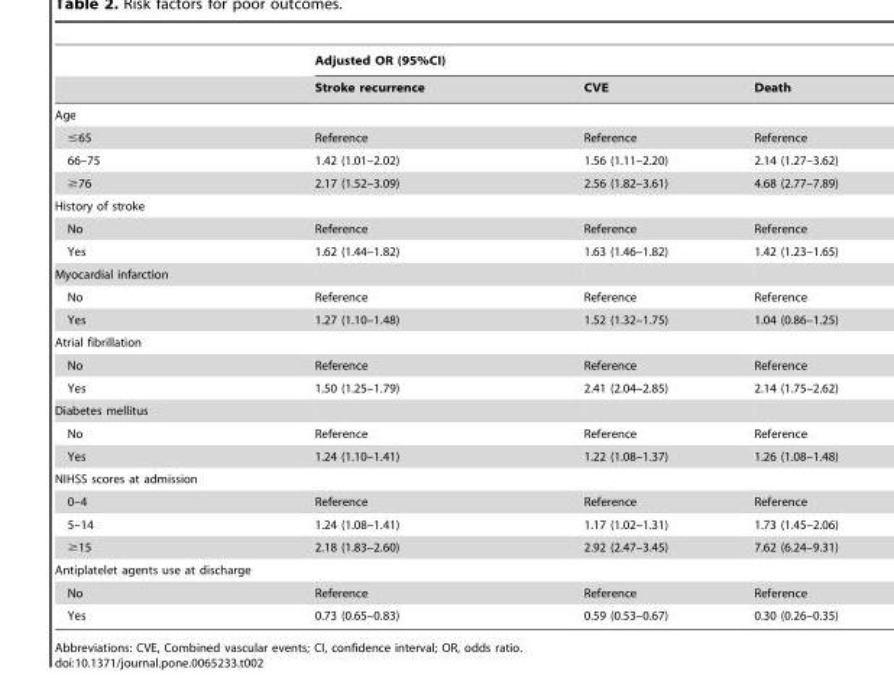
<table><thead><tr><td rowspan="2"></td><td colspan="3">Adjusted OR (95%CI)</td></tr><tr><td>Stroke recurrence</td><td>CVE</td><td>Death</td></tr></thead><tbody><tr><td colspan="4">Age</td></tr><tr><td>≤65</td><td>Reference</td><td>Reference</td><td>Reference</td></tr><tr><td>66–75</td><td>1.42 (1.01–2.02)</td><td>1.56 (1.11–2.20)</td><td>2.14 (1.27–3.62)</td></tr><tr><td>≥76</td><td>2.17 (1.52–3.09)</td><td>2.56 (1.82–3.61)</td><td>4.68 (2.77–7.89)</td></tr><tr><td colspan="4">History of stroke</td></tr><tr><td>No</td><td>Reference</td><td>Reference</td><td>Reference</td></tr><tr><td>Yes</td><td>1.62 (1.44–1.82)</td><td>1.63 (1.46–1.82)</td><td>1.42 (1.23–1.65)</td></tr><tr><td colspan="4">Myocardial infarction</td></tr><tr><td>No</td><td>Reference</td><td>Reference</td><td>Reference</td></tr><tr><td>Yes</td><td>1.27 (1.10–1.48)</td><td>1.52 (1.32–1.75)</td><td>1.04 (0.86–1.25)</td></tr><tr><td colspan="4">Atrial fibrillation</td></tr><tr><td>No</td><td>Reference</td><td>Reference</td><td>Reference</td></tr><tr><td>Yes</td><td>1.50 (1.25–1.79)</td><td>2.41 (2.04–2.85)</td><td>2.14 (1.75–2.62)</td></tr><tr><td colspan="4">Diabetes mellitus</td></tr><tr><td>No</td><td>Reference</td><td>Reference</td><td>Reference</td></tr><tr><td>Yes</td><td>1.24 (1.10–1.41)</td><td>1.22 (1.08–1.37)</td><td>1.26 (1.08–1.48)</td></tr><tr><td colspan="4">NIHSS scores at admission</td></tr><tr><td>0–4</td><td>Reference</td><td>Reference</td><td>Reference</td></tr><tr><td>5–14</td><td>1.24 (1.08–1.41)</td><td>1.17 (1.02–1.31)</td><td>1.73 (1.45–2.06)</td></tr><tr><td>≥15</td><td>2.18 (1.83–2.60)</td><td>2.92 (2.47–3.45)</td><td>7.62 (6.24–9.31)</td></tr><tr><td colspan="4">Antiplatelet agents use at discharge</td></tr><tr><td>No</td><td>Reference</td><td>Reference</td><td>Reference</td></tr><tr><td>Yes</td><td>0.73 (0.65–0.83)</td><td>0.59 (0.53–0.67)</td><td>0.30 (0.26–0.35)</td></tr></tbody></table>